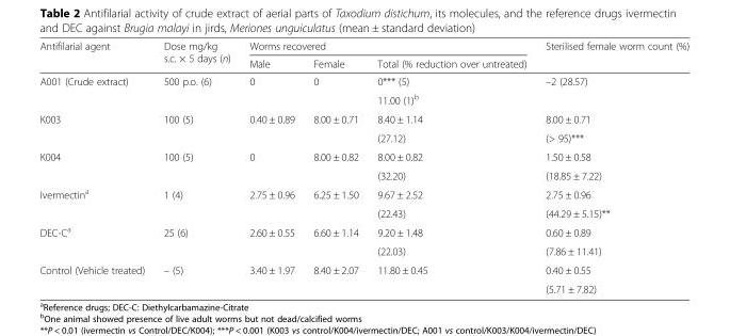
<table><thead><tr><td rowspan="2">Antifilarial agent</td><td rowspan="2">Dose mg/kg s.c. × 5 days (n)</td><td colspan="3">Worms recovered</td><td rowspan="2">Sterilised female worm count (%)</td></tr><tr><td>Male</td><td>Female</td><td>Total (% reduction over untreated)</td></tr></thead><tbody><tr><td rowspan="2">A001 (Crude extract)</td><td rowspan="2">500 p.o. (6)</td><td rowspan="2">0</td><td rowspan="2">0</td><td>0*** (5)</td><td rowspan="2">–2 (28.57)</td></tr><tr><td>11.00 (1)<sup>b</sup></td></tr><tr><td rowspan="2">K003</td><td rowspan="2">100 (5)</td><td rowspan="2">0.40 ± 0.89</td><td rowspan="2">8.00 ± 0.71</td><td>8.40 ± 1.14</td><td>8.00 ± 0.71</td></tr><tr><td>(27.12)</td><td>(&gt; 95)***</td></tr><tr><td rowspan="2">K004</td><td rowspan="2">100 (5)</td><td rowspan="2">0</td><td rowspan="2">8.00 ± 0.82</td><td>8.00 ± 0.82</td><td>1.50 ± 0.58</td></tr><tr><td>(32.20)</td><td>(18.85 ± 7.22)</td></tr><tr><td rowspan="2">Ivermectin<sup>a</sup></td><td rowspan="2">1 (4)</td><td rowspan="2">2.75 ± 0.96</td><td rowspan="2">6.25 ± 1.50</td><td>9.67 ± 2.52</td><td>2.75 ± 0.96</td></tr><tr><td>(22.43)</td><td>(44.29 ± 5.15)**</td></tr><tr><td rowspan="2">DEC-C<sup>a</sup></td><td rowspan="2">25 (6)</td><td rowspan="2">2.60 ± 0.55</td><td rowspan="2">6.60 ± 1.14</td><td>9.20 ± 1.48</td><td>0.60 ± 0.89</td></tr><tr><td>(22.03)</td><td>(7.86 ± 11.41)</td></tr><tr><td rowspan="2">Control (Vehicle treated)</td><td rowspan="2">– (5)</td><td rowspan="2">3.40 ± 1.97</td><td rowspan="2">8.40 ± 2.07</td><td rowspan="2">11.80 ± 0.45</td><td>0.40 ± 0.55</td></tr><tr><td>(5.71 ± 7.82)</td></tr></tbody></table>